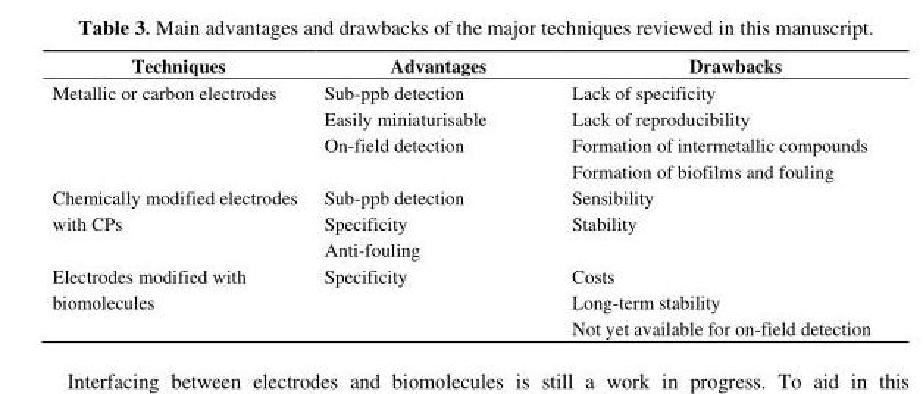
<table><thead><tr><td>Techniques</td><td>Advantages</td><td>Drawbacks</td></tr></thead><tbody><tr><td>Metallic or carbon electrodes</td><td>Sub-ppb detection Easily miniaturisable On-field detection</td><td>Lack of specificity Lack of reproducibility Formation of intermetallic compounds Formation of biofilms and fouling</td></tr><tr><td>Chemically modified electrodes with CPs</td><td>Sub-ppb detection Specificity Anti-fouling</td><td>Sensibility Stability</td></tr><tr><td>Electrodes modified with biomolecules</td><td>Specificity</td><td>Costs Long-term stability Not yet available for on-field detection</td></tr></tbody></table>